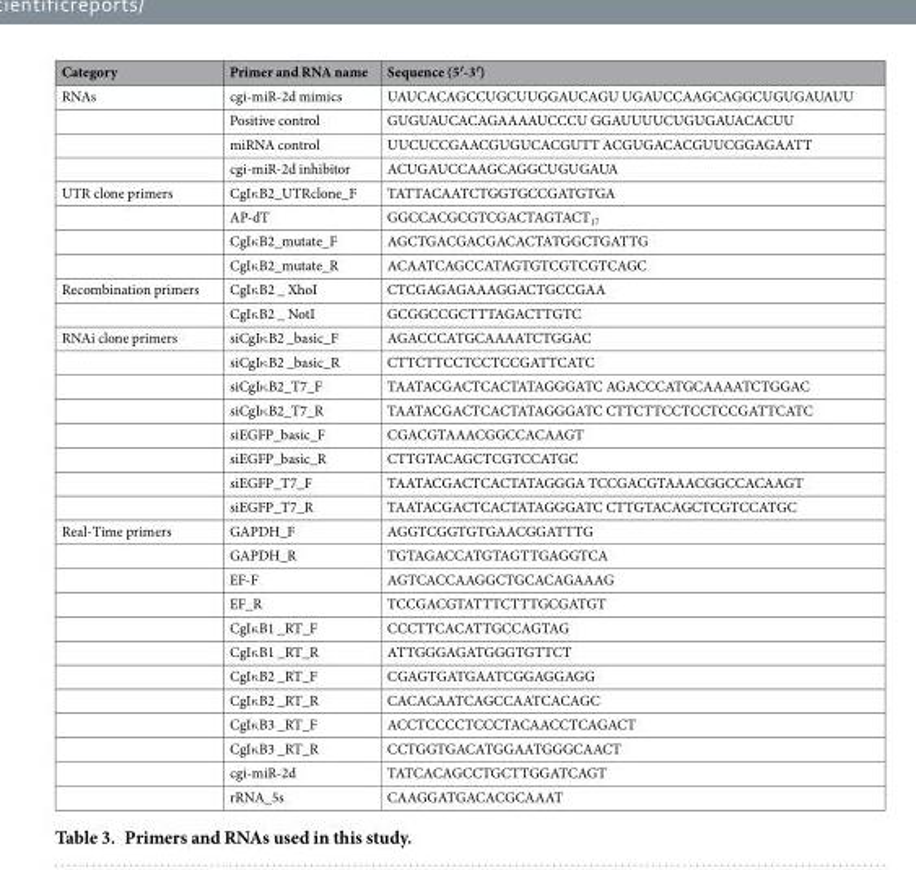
<table><thead><tr><td>Category</td><td>Primer and RNA name</td><td>Sequence (5′-3′)</td></tr></thead><tbody><tr><td rowspan="4">RNAs</td><td>cgi-miR-2d mimics</td><td>UAUCACAGCCUGCUUGGAUCAGU UGAUCCAAGCAGGCUGUGAUAUU</td></tr><tr><td>Positive control</td><td>GUGUAUCACAGAAAAUCCCU GGAUUUUCUGUGAUACACUU</td></tr><tr><td>miRNA control</td><td>UUCUCCGAACGUGUCACGUTT ACGUGACACGUUCGGAGAATT</td></tr><tr><td>cgi-miR-2d inhibitor</td><td>ACUGAUCCAAGCAGGCUGUGAUA</td></tr><tr><td rowspan="4">UTR clone primers</td><td>CgIκ B2_UTRclone_F</td><td>TATTACAATCTGGTGCCGATGTGA</td></tr><tr><td>AP-dT</td><td>GGCCACGCGTCGACTAGTACT<sub>17</sub></td></tr><tr><td>CgIκ B2_mutate_F</td><td>AGCTGACGACGACACTATGGCTGATTG</td></tr><tr><td>CgIκ B2_mutate_R</td><td>ACAATCAGCCATAGTGTCGTCGTCAGC</td></tr><tr><td rowspan="2">Recombination primers</td><td>CgIκ B2 _ XhoI</td><td>CTCGAGAGAAAGGACTGCCGAA</td></tr><tr><td>CgIκ B2 _ NotI</td><td>GCGGCCGCTTTAGACTTGTC</td></tr><tr><td rowspan="8">RNAi clone primers</td><td>siCgIκ B2 _basic_F</td><td>AGACCCATGCAAAATCTGGAC</td></tr><tr><td>siCgIκ B2 _basic_R</td><td>CTTCTTCCTCCTCCGATTCATC</td></tr><tr><td>siCgIκ B2_T7_F</td><td>TAATACGACTCACTATAGGGATC AGACCCATGCAAAATCTGGAC</td></tr><tr><td>siCgIκ B2_T7_R</td><td>TAATACGACTCACTATAGGGATC CTTCTTCCTCCTCCGATTCATC</td></tr><tr><td>siEGFP_basic_F</td><td>CGACGTAAACGGCCACAAGT</td></tr><tr><td>siEGFP_basic_R</td><td>CTTGTACAGCTCGTCCATGC</td></tr><tr><td>siEGFP_T7_F</td><td>TAATACGACTCACTATAGGGA TCCGACGTAAACGGCCACAAGT</td></tr><tr><td>siEGFP_T7_R</td><td>TAATACGACTCACTATAGGGATC CTTGTACAGCTCGTCCATGC</td></tr><tr><td rowspan="12">Real-Time primers</td><td>GAPDH_F</td><td>AGGTCGGTGTGAACGGATTTG</td></tr><tr><td>GAPDH_R</td><td>TGTAGACCATGTAGTTGAGGTCA</td></tr><tr><td>EF-F</td><td>AGTCACCAAGGCTGCACAGAAAG</td></tr><tr><td>EF_R</td><td>TCCGACGTATTTCTTTGCGATGT</td></tr><tr><td>CgIκ B1 _RT_F</td><td>CCCTTCACATTGCCAGTAG</td></tr><tr><td>CgIκ B1 _RT_R</td><td>ATTGGGAGATGGGTGTTCT</td></tr><tr><td>CgIκ B2 _RT_F</td><td>CGAGTGATGAATCGGAGGAGG</td></tr><tr><td>CgIκ B2 _RT_R</td><td>CACACAATCAGCCAATCACAGC</td></tr><tr><td>CgIκ B3 _RT_F</td><td>ACCTCCCCTCCCTACAACCTCAGACT</td></tr><tr><td>CgIκ B3 _RT_R</td><td>CCTGGTGACATGGAATGGGCAACT</td></tr><tr><td>cgi-miR-2d</td><td>TATCACAGCCTGCTTGGATCAGT</td></tr><tr><td>rRNA_5s</td><td>CAAGGATGACACGCAAAT</td></tr></tbody></table>